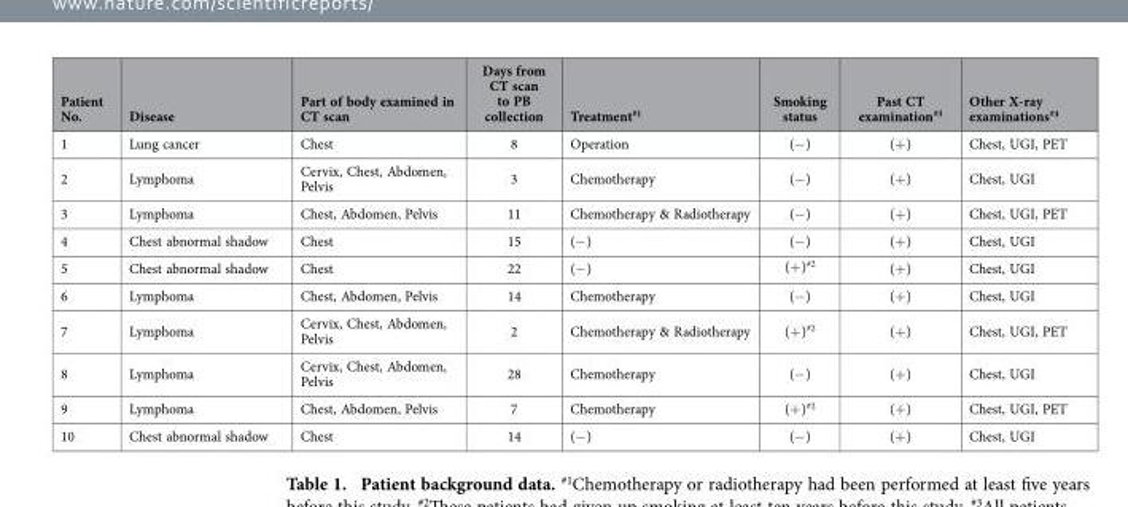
<table><thead><tr><td>Patient No.</td><td>Disease</td><td>Part of body examined in CT scan</td><td>Days from CT scan to PB collection</td><td>Treatment#1</td><td>Smoking status</td><td>Past CT examination#3</td><td>Other X-ray examinations#4</td></tr></thead><tbody><tr><td>1</td><td>Lung cancer</td><td>Chest</td><td>8</td><td>Operation</td><td>(− )</td><td>(+ )</td><td>Chest, UGI, PET</td></tr><tr><td>2</td><td>Lymphoma</td><td>Cervix, Chest, Abdomen, Pelvis</td><td>3</td><td>Chemotherapy</td><td>(− )</td><td>(+ )</td><td>Chest, UGI</td></tr><tr><td>3</td><td>Lymphoma</td><td>Chest, Abdomen, Pelvis</td><td>11</td><td>Chemotherapy &amp; Radiotherapy</td><td>(− )</td><td>(+ )</td><td>Chest, UGI, PET</td></tr><tr><td>4</td><td>Chest abnormal shadow</td><td>Chest</td><td>15</td><td>(− )</td><td>(− )</td><td>(+ )</td><td>Chest, UGI</td></tr><tr><td>5</td><td>Chest abnormal shadow</td><td>Chest</td><td>22</td><td>(− )</td><td>(+ )#2</td><td>(+ )</td><td>Chest, UGI</td></tr><tr><td>6</td><td>Lymphoma</td><td>Chest, Abdomen, Pelvis</td><td>14</td><td>Chemotherapy</td><td>(− )</td><td>(+ )</td><td>Chest, UGI</td></tr><tr><td>7</td><td>Lymphoma</td><td>Cervix, Chest, Abdomen, Pelvis</td><td>2</td><td>Chemotherapy &amp; Radiotherapy</td><td>(+ )#2</td><td>(+ )</td><td>Chest, UGI, PET</td></tr><tr><td>8</td><td>Lymphoma</td><td>Cervix, Chest, Abdomen, Pelvis</td><td>28</td><td>Chemotherapy</td><td>(− )</td><td>(+ )</td><td>Chest, UGI</td></tr><tr><td>9</td><td>Lymphoma</td><td>Chest, Abdomen, Pelvis</td><td>7</td><td>Chemotherapy</td><td>(+ )#2</td><td>(+ )</td><td>Chest, UGI, PET</td></tr><tr><td>10</td><td>Chest abnormal shadow</td><td>Chest</td><td>14</td><td>(− )</td><td>(− )</td><td>(+ )</td><td>Chest, UGI</td></tr></tbody></table>